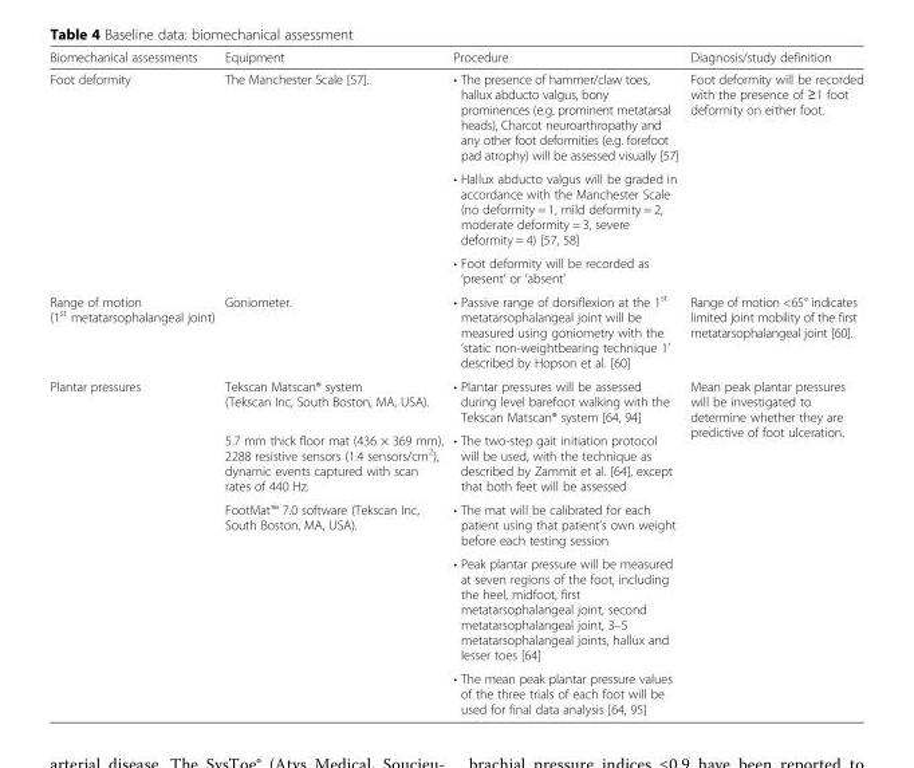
<table><thead><tr><td>Biomechanical assessments</td><td>Equipment</td><td>Procedure</td><td>Diagnosis/study definition</td></tr></thead><tbody><tr><td rowspan="3">Foot deformity</td><td rowspan="3">The Manchester Scale [57].</td><td>• The presence of hammer/claw toes, hallux abducto valgus, bony prominences (e.g. prominent metatarsal heads), Charcot neuroarthropathy and any other foot deformities (e.g. forefoot pad atrophy) will be assessed visually [57]</td><td rowspan="3">Foot deformity will be recorded with the presence of ≥1 foot deformity on either foot.</td></tr><tr><td>• Hallux abducto valgus will be graded in accordance with the Manchester Scale (no deformity = 1, mild deformity = 2, moderate deformity = 3, severe deformity = 4) [57, 58]</td></tr><tr><td>• Foot deformity will be recorded as ‘present’ or ‘absent’</td></tr><tr><td>Range of motion (1<sup>st</sup> metatarsophalangeal joint)</td><td>Goniometer.</td><td>• Passive range of dorsiflexion at the 1<sup>st</sup> metatarsophalangeal joint will be measured using goniometry with the ‘static non-weightbearing technique 1’ described by Hopson et al. [60]</td><td>Range of motion &lt;65° indicates limited joint mobility of the first metatarsophalangeal joint [60].</td></tr><tr><td rowspan="5">Plantar pressures</td><td>Tekscan Matscan® system (Tekscan Inc, South Boston, MA, USA).</td><td>• Plantar pressures will be assessed during level barefoot walking with the Tekscan Matscan® system [64, 94]</td><td rowspan="5">Mean peak plantar pressures will be investigated to determine whether they are predictive of foot ulceration.</td></tr><tr><td>5.7 mm thick floor mat (436 × 369 mm), 2288 resistive sensors (1.4 sensors/cm<sup>2</sup>), dynamic events captured with scan rates of 440 Hz.</td><td>• The two-step gait initiation protocol will be used, with the technique as described by Zammit et al. [64], except that both feet will be assessed</td></tr><tr><td rowspan="3">FootMat™ 7.0 software (Tekscan Inc, South Boston, MA, USA).</td><td>• The mat will be calibrated for each patient using that patient’s own weight before each testing session</td></tr><tr><td>• Peak plantar pressure will be measured at seven regions of the foot, including the heel, midfoot, first metatarsophalangeal joint, second metatarsophalangeal joint, 3–5 metatarsophalangeal joints, hallux and lesser toes [64]</td></tr><tr><td>• The mean peak plantar pressure values of the three trials of each foot will be used for final data analysis [64, 95]</td></tr></tbody></table>